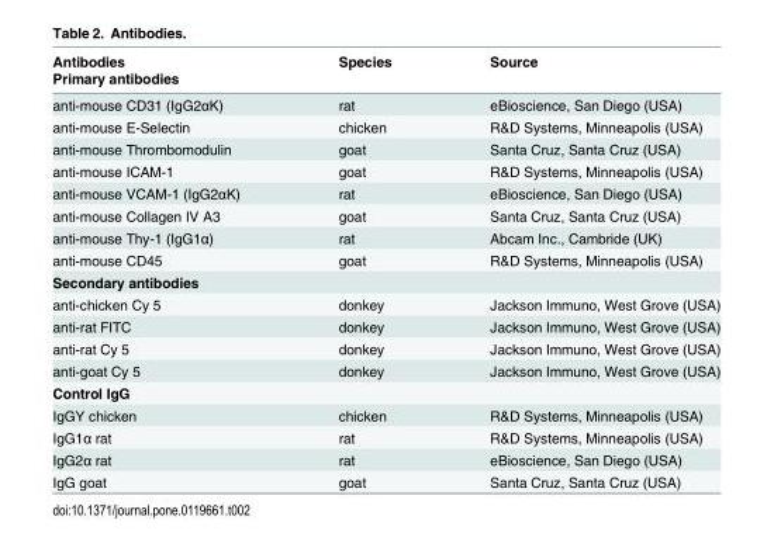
<table><thead><tr><td rowspan="2">Antibodies Primary antibodies</td><td rowspan="2">Species</td><td rowspan="2">Source</td></tr><tr></tr></thead><tbody><tr><td>anti-mouse CD31 (IgG2αK)</td><td>rat</td><td>eBioscience, San Diego (USA)</td></tr><tr><td>anti-mouse E-Selectin</td><td>chicken</td><td>R&amp;D Systems, Minneapolis (USA)</td></tr><tr><td>anti-mouse Thrombomodulin</td><td>goat</td><td>Santa Cruz, Santa Cruz (USA)</td></tr><tr><td>anti-mouse ICAM-1</td><td>goat</td><td>R&amp;D Systems, Minneapolis (USA)</td></tr><tr><td>anti-mouse VCAM-1 (IgG2αK)</td><td>rat</td><td>eBioscience, San Diego (USA)</td></tr><tr><td>anti-mouse Collagen IV A3</td><td>goat</td><td>Santa Cruz, Santa Cruz (USA)</td></tr><tr><td>anti-mouse Thy-1 (IgG1α)</td><td>rat</td><td>Abcam Inc., Cambride (UK)</td></tr><tr><td>anti-mouse CD45</td><td>goat</td><td>R&amp;D Systems, Minneapolis (USA)</td></tr><tr><td colspan="3">Secondary antibodies</td></tr><tr><td>anti-chicken Cy 5</td><td>donkey</td><td>Jackson Immuno, West Grove (USA)</td></tr><tr><td>anti-rat FITC</td><td>donkey</td><td>Jackson Immuno, West Grove (USA)</td></tr><tr><td>anti-rat Cy 5</td><td>donkey</td><td>Jackson Immuno, West Grove (USA)</td></tr><tr><td>anti-goat Cy 5</td><td>donkey</td><td>Jackson Immuno, West Grove (USA)</td></tr><tr><td colspan="3">Control IgG</td></tr><tr><td>IgGY chicken</td><td>chicken</td><td>R&amp;D Systems, Minneapolis (USA)</td></tr><tr><td>IgG1α rat</td><td>rat</td><td>R&amp;D Systems, Minneapolis (USA)</td></tr><tr><td>IgG2α rat</td><td>rat</td><td>eBioscience, San Diego (USA)</td></tr><tr><td>IgG goat</td><td>goat</td><td>Santa Cruz, Santa Cruz (USA)</td></tr></tbody></table>